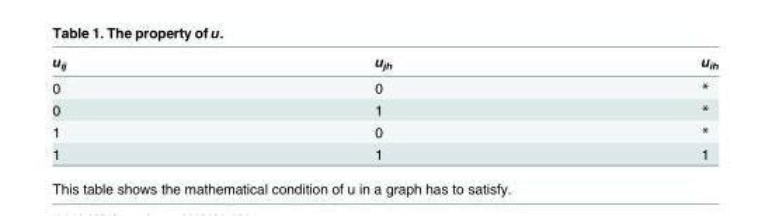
<table><thead><tr><td>u<sub>ij</sub></td><td>u<sub>jh</sub></td><td>u<sub>ih</sub></td></tr></thead><tbody><tr><td>0</td><td>0</td><td>*</td></tr><tr><td>0</td><td>1</td><td>*</td></tr><tr><td>1</td><td>0</td><td>*</td></tr><tr><td>1</td><td>1</td><td>1</td></tr></tbody></table>